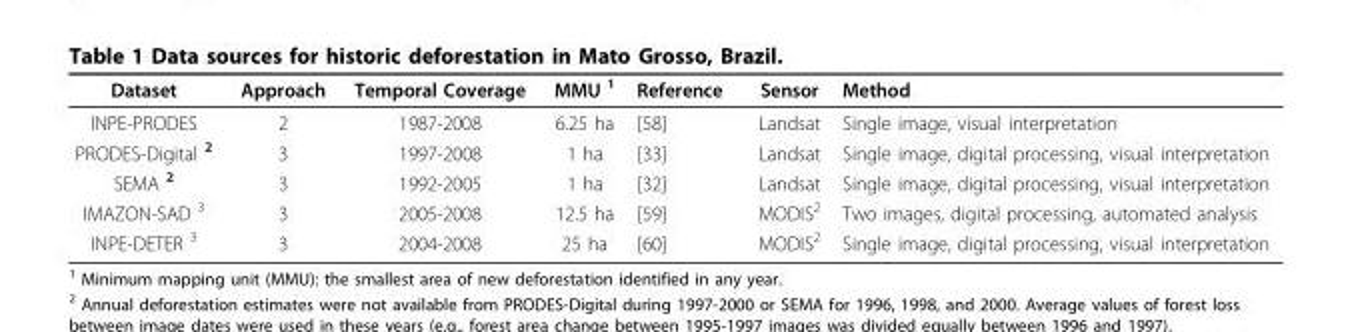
<table><thead><tr><td>Dataset</td><td>Approach</td><td>Temporal Coverage</td><td>MMU <sup>1</sup></td><td>Reference</td><td>Sensor</td><td>Method</td></tr></thead><tbody><tr><td>INPE-PRODES</td><td>2</td><td>1987-2008</td><td>6.25 ha</td><td>[58]</td><td>Landsat</td><td>Single image, visual interpretation</td></tr><tr><td>PRODES-Digital <sup>2</sup></td><td>3</td><td>1997-2008</td><td>1 ha</td><td>[33]</td><td>Landsat</td><td>Single image, digital processing, visual interpretation</td></tr><tr><td>SEMA <sup>2</sup></td><td>3</td><td>1992-2005</td><td>1 ha</td><td>[32]</td><td>Landsat</td><td>Single image, digital processing, visual interpretation</td></tr><tr><td>IMAZON-SAD <sup>3</sup></td><td>3</td><td>2005-2008</td><td>12.5 ha</td><td>[59]</td><td>MODIS<sup>2</sup></td><td>Two images, digital processing, automated analysis</td></tr><tr><td>INPE-DETER <sup>3</sup></td><td>3</td><td>2004-2008</td><td>25 ha</td><td>[60]</td><td>MODIS<sup>2</sup></td><td>Single image, digital processing, visual interpretation</td></tr></tbody></table>